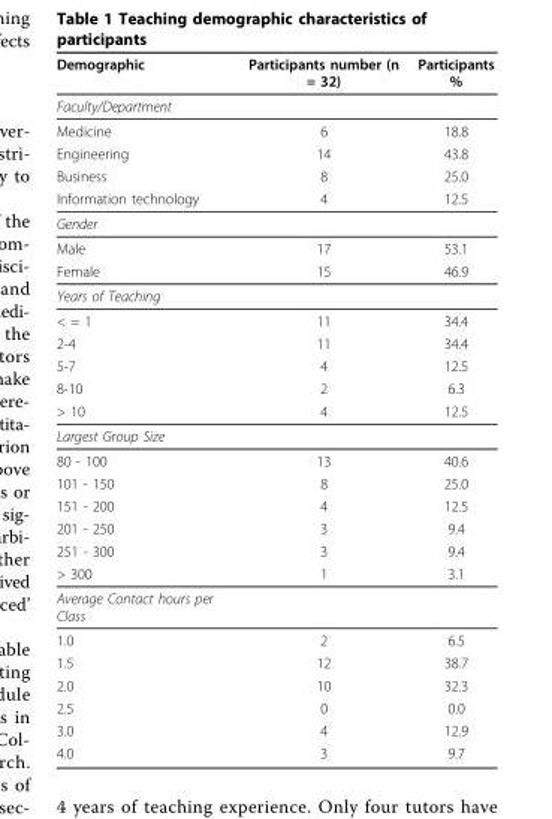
<table><thead><tr><td>Demographic</td><td>Participants number (n = 32)</td><td>Participants %</td></tr></thead><tbody><tr><td colspan="3">Faculty/Department</td></tr><tr><td>Medicine</td><td>6</td><td>18.8</td></tr><tr><td>Engineering</td><td>14</td><td>43.8</td></tr><tr><td>Business</td><td>8</td><td>25.0</td></tr><tr><td>Information technology</td><td>4</td><td>12.5</td></tr><tr><td colspan="3">Gender</td></tr><tr><td>Male</td><td>17</td><td>53.1</td></tr><tr><td>Female</td><td>15</td><td>46.9</td></tr><tr><td colspan="3">Years of Teaching</td></tr><tr><td>&lt; = 1</td><td>11</td><td>34.4</td></tr><tr><td>2-4</td><td>11</td><td>34.4</td></tr><tr><td>5-7</td><td>4</td><td>12.5</td></tr><tr><td>8-10</td><td>2</td><td>6.3</td></tr><tr><td>&gt; 10</td><td>4</td><td>12.5</td></tr><tr><td colspan="3">Largest Group Size</td></tr><tr><td>80 - 100</td><td>13</td><td>40.6</td></tr><tr><td>101 - 150</td><td>8</td><td>25.0</td></tr><tr><td>151 - 200</td><td>4</td><td>12.5</td></tr><tr><td>201 - 250</td><td>3</td><td>9.4</td></tr><tr><td>251 - 300</td><td>3</td><td>9.4</td></tr><tr><td>&gt; 300</td><td>1</td><td>3.1</td></tr><tr><td colspan="3">Average Contact hours per Class</td></tr><tr><td>1.0</td><td>2</td><td>6.5</td></tr><tr><td>1.5</td><td>12</td><td>38.7</td></tr><tr><td>2.0</td><td>10</td><td>32.3</td></tr><tr><td>2.5</td><td>0</td><td>0.0</td></tr><tr><td>3.0</td><td>4</td><td>12.9</td></tr><tr><td>4.0</td><td>3</td><td>9.7</td></tr></tbody></table>